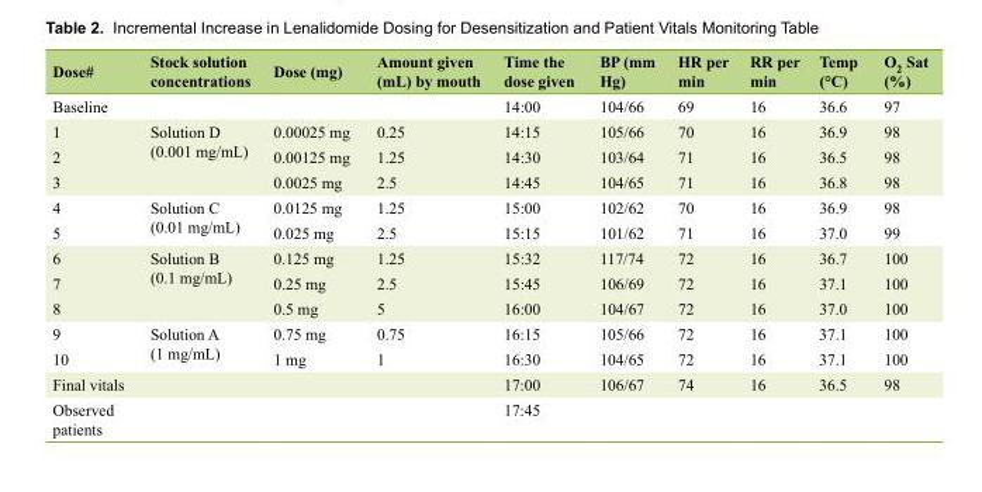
<table><thead><tr><td>Dose#</td><td>Stock solution concentrations</td><td>Dose (mg)</td><td>Amount given (mL) by mouth</td><td>Time the dose given</td><td>BP (mm Hg)</td><td>HR per min</td><td>RR per min</td><td>Temp (°C)</td><td>O<sub>2</sub> Sat (%)</td></tr></thead><tbody><tr><td>Baseline</td><td></td><td></td><td></td><td>14:00</td><td>104/66</td><td>69</td><td>16</td><td>36.6</td><td>97</td></tr><tr><td>1</td><td rowspan="3">Solution D (0.001 mg/mL)</td><td>0.00025 mg</td><td>0.25</td><td>14:15</td><td>105/66</td><td>70</td><td>16</td><td>36.9</td><td>98</td></tr><tr><td>2</td><td>0.00125 mg</td><td>1.25</td><td>14:30</td><td>103/64</td><td>71</td><td>16</td><td>36.5</td><td>98</td></tr><tr><td>3</td><td>0.0025 mg</td><td>2.5</td><td>14:45</td><td>104/65</td><td>71</td><td>16</td><td>36.8</td><td>98</td></tr><tr><td>4</td><td rowspan="2">Solution C (0.01 mg/mL)</td><td>0.0125 mg</td><td>1.25</td><td>15:00</td><td>102/62</td><td>70</td><td>16</td><td>36.9</td><td>98</td></tr><tr><td>5</td><td>0.025 mg</td><td>2.5</td><td>15:15</td><td>101/62</td><td>71</td><td>16</td><td>37.0</td><td>99</td></tr><tr><td>6</td><td rowspan="3">Solution B (0.1 mg/mL)</td><td>0.125 mg</td><td>1.25</td><td>15:32</td><td>117/74</td><td>72</td><td>16</td><td>36.7</td><td>100</td></tr><tr><td>7</td><td>0.25 mg</td><td>2.5</td><td>15:45</td><td>106/69</td><td>72</td><td>16</td><td>37.1</td><td>100</td></tr><tr><td>8</td><td>0.5 mg</td><td>5</td><td>16:00</td><td>104/67</td><td>72</td><td>16</td><td>37.0</td><td>100</td></tr><tr><td>9</td><td rowspan="2">Solution A (1 mg/mL)</td><td>0.75 mg</td><td>0.75</td><td>16:15</td><td>105/66</td><td>72</td><td>16</td><td>37.1</td><td>100</td></tr><tr><td>10</td><td>1 mg</td><td>1</td><td>16:30</td><td>104/65</td><td>72</td><td>16</td><td>37.1</td><td>100</td></tr><tr><td>Final vitals</td><td></td><td></td><td></td><td>17:00</td><td>106/67</td><td>74</td><td>16</td><td>36.5</td><td>98</td></tr><tr><td>Observed patients</td><td></td><td></td><td></td><td>17:45</td><td></td><td></td><td></td><td></td><td></td></tr></tbody></table>